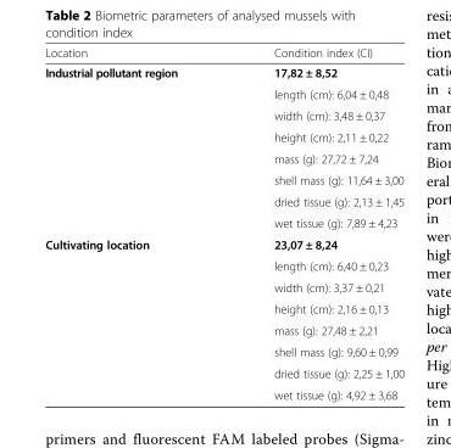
<table><thead><tr><td>Location</td><td>Condition index (CI)</td></tr></thead><tbody><tr><td rowspan="8">Industrial pollutant region</td><td>17,82 ± 8,52</td></tr><tr><td>length (cm): 6,04 ± 0,48</td></tr><tr><td>width (cm): 3,48 ± 0,37</td></tr><tr><td>height (cm): 2,11 ± 0,22</td></tr><tr><td>mass (g): 27,72 ± 7,24</td></tr><tr><td>shell mass (g): 11,64 ± 3,00</td></tr><tr><td>dried tissue (g): 2,13 ± 1,45</td></tr><tr><td>wet tissue (g): 7,89 ± 4,23</td></tr><tr><td rowspan="8">Cultivating location</td><td>23,07 ± 8,24</td></tr><tr><td>length (cm): 6,40 ± 0,23</td></tr><tr><td>width (cm): 3,37 ± 0,21</td></tr><tr><td>height (cm): 2,16 ± 0,13</td></tr><tr><td>mass (g): 27,48 ± 2,21</td></tr><tr><td>shell mass (g): 9,60 ± 0,99</td></tr><tr><td>dried tissue (g): 2,25 ± 1,00</td></tr><tr><td>wet tissue (g): 4,92 ± 3,68</td></tr></tbody></table>